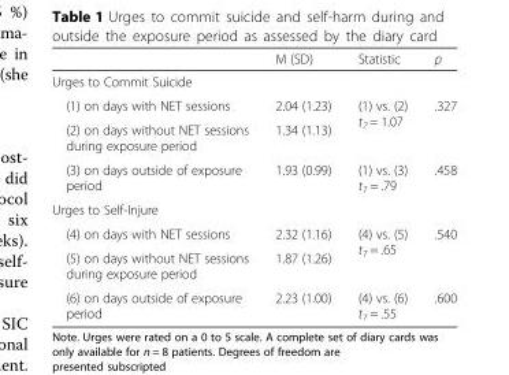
<table><thead><tr><td></td><td>M (SD)</td><td>Statistic</td><td>p</td></tr></thead><tbody><tr><td colspan="4">Urges to Commit Suicide</td></tr><tr><td>(1) on days with NET sessions</td><td>2.04 (1.23)</td><td rowspan="2">(1) vs. (2) t<sub>7</sub> = 1.07</td><td rowspan="2">.327</td></tr><tr><td>(2) on days without NET sessions during exposure period</td><td>1.34 (1.13)</td></tr><tr><td>(3) on days outside of exposure period</td><td>1.93 (0.99)</td><td>(1) vs. (3) t<sub>7</sub> = .79</td><td>.458</td></tr><tr><td colspan="4">Urges to Self-Injure</td></tr><tr><td>(4) on days with NET sessions</td><td>2.32 (1.16)</td><td rowspan="2">(4) vs. (5) t<sub>7</sub> = .65</td><td rowspan="2">.540</td></tr><tr><td>(5) on days without NET sessions during exposure period</td><td>1.87 (1.26)</td></tr><tr><td>(6) on days outside of exposure period</td><td>2.23 (1.00)</td><td>(4) vs. (6) t<sub>7</sub> = .55</td><td>.600</td></tr></tbody></table>